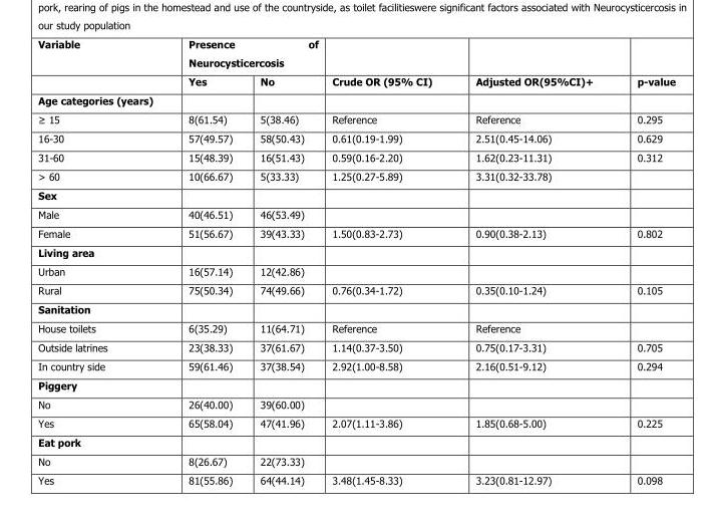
<table><thead><tr><td rowspan="2">Variable</td><td colspan="2">Presence of Neurocysticercosis</td><td rowspan="2">Crude OR (95% CI)</td><td rowspan="2">Adjusted OR(95%CI)+</td><td rowspan="2">p-value</td></tr><tr><td>Yes</td><td>No</td></tr></thead><tbody><tr><td colspan="6">Age categories (years)</td></tr><tr><td>≥ 15</td><td>8(61.54)</td><td>5(38.46)</td><td>Reference</td><td>Reference</td><td>0.295</td></tr><tr><td>16-30</td><td>57(49.57)</td><td>58(50.43)</td><td>0.61(0.19-1.99)</td><td>2.51(0.45-14.06)</td><td>0.629</td></tr><tr><td>31-60</td><td>15(48.39)</td><td>16(51.43)</td><td>0.59(0.16-2.20)</td><td>1.62(0.23-11.31)</td><td>0.312</td></tr><tr><td>&gt; 60</td><td>10(66.67)</td><td>5(33.33)</td><td>1.25(0.27-5.89)</td><td>3.31(0.32-33.78)</td><td></td></tr><tr><td colspan="6">Sex</td></tr><tr><td>Male</td><td>40(46.51)</td><td>46(53.49)</td><td></td><td></td><td></td></tr><tr><td>Female</td><td>51(56.67)</td><td>39(43.33)</td><td>1.50(0.83-2.73)</td><td>0.90(0.38-2.13)</td><td>0.802</td></tr><tr><td colspan="6">Living area</td></tr><tr><td>Urban</td><td>16(57.14)</td><td>12(42.86)</td><td></td><td></td><td></td></tr><tr><td>Rural</td><td>75(50.34)</td><td>74(49.66)</td><td>0.76(0.34-1.72)</td><td>0.35(0.10-1.24)</td><td>0.105</td></tr><tr><td colspan="6">Sanitation</td></tr><tr><td>House toilets</td><td>6(35.29)</td><td>11(64.71)</td><td>Reference</td><td>Reference</td><td></td></tr><tr><td>Outside latrines</td><td>23(38.33)</td><td>37(61.67)</td><td>1.14(0.37-3.50)</td><td>0.75(0.17-3.31)</td><td>0.705</td></tr><tr><td>In country side</td><td>59(61.46)</td><td>37(38.54)</td><td>2.92(1.00-8.58)</td><td>2.16(0.51-9.12)</td><td>0.294</td></tr><tr><td colspan="6">Piggery</td></tr><tr><td>No</td><td>26(40.00)</td><td>39(60.00)</td><td></td><td></td><td></td></tr><tr><td>Yes</td><td>65(58.04)</td><td>47(41.96)</td><td>2.07(1.11-3.86)</td><td>1.85(0.68-5.00)</td><td>0.225</td></tr><tr><td colspan="6">Eat pork</td></tr><tr><td>No</td><td>8(26.67)</td><td>22(73.33)</td><td></td><td></td><td></td></tr><tr><td>Yes</td><td>81(55.86)</td><td>64(44.14)</td><td>3.48(1.45-8.33)</td><td>3.23(0.81-12.97)</td><td>0.098</td></tr></tbody></table>